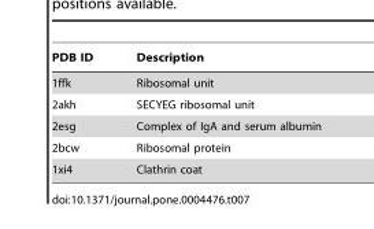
<table><thead><tr><td>PDB ID</td><td>Description</td></tr></thead><tbody><tr><td>1ffk</td><td>Ribosomal unit</td></tr><tr><td>2akh</td><td>SECYEG ribosomal unit</td></tr><tr><td>2esg</td><td>Complex of IgA and serum albumin</td></tr><tr><td>2bcw</td><td>Ribosomal protein</td></tr><tr><td>1xi4</td><td>Clathrin coat</td></tr></tbody></table>